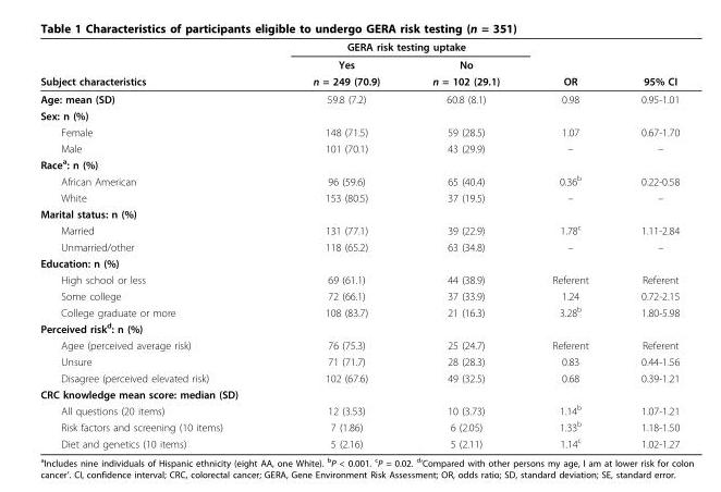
<table><thead><tr><td rowspan="3">Subject characteristics</td><td colspan="2">GERA risk testing uptake</td><td rowspan="3">OR</td><td rowspan="3">95% CI</td></tr><tr><td rowspan="2">Yes n = 249 (70.9)</td><td rowspan="2">No n = 102 (29.1)</td></tr><tr></tr></thead><tbody><tr><td>Age: mean (SD)</td><td>59.8 (7.2)</td><td>60.8 (8.1)</td><td>0.98</td><td>0.95-1.01</td></tr><tr><td colspan="5">Sex: n (%)</td></tr><tr><td>Female</td><td>148 (71.5)</td><td>59 (28.5)</td><td>1.07</td><td>0.67-1.70</td></tr><tr><td>Male</td><td>101 (70.1)</td><td>43 (29.9)</td><td>–</td><td>–</td></tr><tr><td colspan="5">Race<sup>a</sup>: n (%)</td></tr><tr><td>African American</td><td>96 (59.6)</td><td>65 (40.4)</td><td>0.36<sup>b</sup></td><td>0.22-0.58</td></tr><tr><td>White</td><td>153 (80.5)</td><td>37 (19.5)</td><td>–</td><td>–</td></tr><tr><td colspan="5">Marital status: n (%)</td></tr><tr><td>Married</td><td>131 (77.1)</td><td>39 (22.9)</td><td>1.78<sup>c</sup></td><td>1.11-2.84</td></tr><tr><td>Unmarried/other</td><td>118 (65.2)</td><td>63 (34.8)</td><td>–</td><td>–</td></tr><tr><td colspan="5">Education: n (%)</td></tr><tr><td>High school or less</td><td>69 (61.1)</td><td>44 (38.9)</td><td>Referent</td><td>Referent</td></tr><tr><td>Some college</td><td>72 (66.1)</td><td>37 (33.9)</td><td>1.24</td><td>0.72-2.15</td></tr><tr><td>College graduate or more</td><td>108 (83.7)</td><td>21 (16.3)</td><td>3.28<sup>b</sup></td><td>1.80-5.98</td></tr><tr><td colspan="5">Perceived risk<sup>d</sup>: n (%)</td></tr><tr><td>Agee (perceived average risk)</td><td>76 (75.3)</td><td>25 (24.7)</td><td>Referent</td><td>Referent</td></tr><tr><td>Unsure</td><td>71 (71.7)</td><td>28 (28.3)</td><td>0.83</td><td>0.44-1.56</td></tr><tr><td>Disagree (perceived elevated risk)</td><td>102 (67.6)</td><td>49 (32.5)</td><td>0.68</td><td>0.39-1.21</td></tr><tr><td colspan="5">CRC knowledge mean score: median (SD)</td></tr><tr><td>All questions (20 items)</td><td>12 (3.53)</td><td>10 (3.73)</td><td>1.14<sup>b</sup></td><td>1.07-1.21</td></tr><tr><td>Risk factors and screening (10 items)</td><td>7 (1.86)</td><td>6 (2.05)</td><td>1.33<sup>b</sup></td><td>1.18-1.50</td></tr><tr><td>Diet and genetics (10 items)</td><td>5 (2.16)</td><td>5 (2.11)</td><td>1.14<sup>c</sup></td><td>1.02-1.27</td></tr></tbody></table>